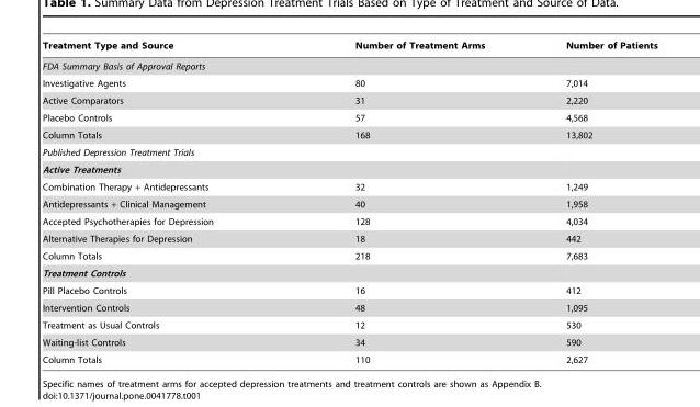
<table><thead><tr><td>Treatment Type and Source</td><td>Number of Treatment Arms</td><td>Number of Patients</td></tr></thead><tbody><tr><td colspan="3">FDA Summary Basis of Approval Reports</td></tr><tr><td>Investigative Agents</td><td>80</td><td>7,014</td></tr><tr><td>Active Comparators</td><td>31</td><td>2,220</td></tr><tr><td>Placebo Controls</td><td>57</td><td>4,568</td></tr><tr><td>Column Totals</td><td>168</td><td>13,802</td></tr><tr><td colspan="3">Published Depression Treatment Trials</td></tr><tr><td colspan="3">Active Treatments</td></tr><tr><td>Combination Therapy + Antidepressants</td><td>32</td><td>1,249</td></tr><tr><td>Antidepressants + Clinical Management</td><td>40</td><td>1,958</td></tr><tr><td>Accepted Psychotherapies for Depression</td><td>128</td><td>4,034</td></tr><tr><td>Alternative Therapies for Depression</td><td>18</td><td>442</td></tr><tr><td>Column Totals</td><td>218</td><td>7,683</td></tr><tr><td colspan="3">Treatment Controls</td></tr><tr><td>Pill Placebo Controls</td><td>16</td><td>412</td></tr><tr><td>Intervention Controls</td><td>48</td><td>1,095</td></tr><tr><td>Treatment as Usual Controls</td><td>12</td><td>530</td></tr><tr><td>Waiting-list Controls</td><td>34</td><td>590</td></tr><tr><td>Column Totals</td><td>110</td><td>2,627</td></tr></tbody></table>